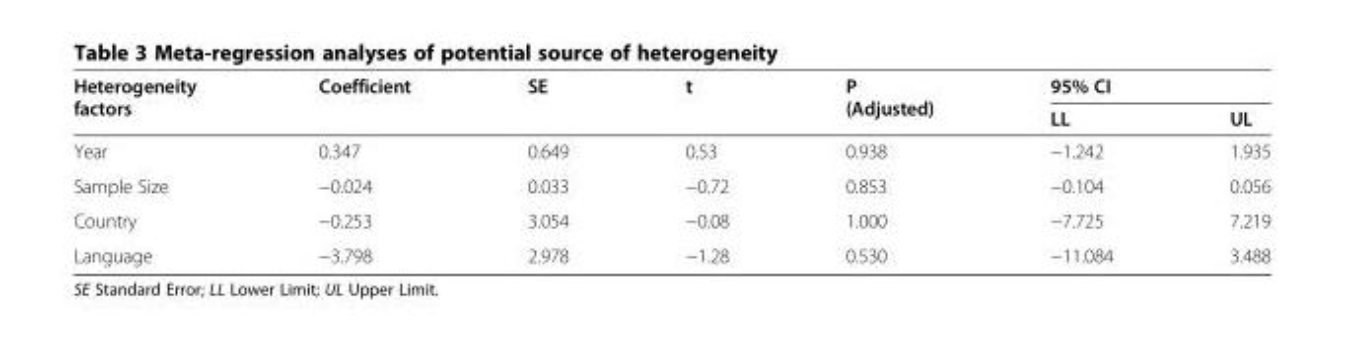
<table><thead><tr><td rowspan="2">Heterogeneity factors</td><td rowspan="2">Coefficient</td><td rowspan="2">SE</td><td rowspan="2">t</td><td rowspan="2">P (Adjusted)</td><td colspan="2">95% CI</td></tr><tr><td>LL</td><td>UL</td></tr></thead><tbody><tr><td>Year</td><td>0.347</td><td>0.649</td><td>0.53</td><td>0.938</td><td>−1.242</td><td>1.935</td></tr><tr><td>Sample Size</td><td>−0.024</td><td>0.033</td><td>−0.72</td><td>0.853</td><td>−0.104</td><td>0.056</td></tr><tr><td>Country</td><td>−0.253</td><td>3.054</td><td>−0.08</td><td>1.000</td><td>−7.725</td><td>7.219</td></tr><tr><td>Language</td><td>−3.798</td><td>2.978</td><td>−1.28</td><td>0.530</td><td>−11.084</td><td>3.488</td></tr></tbody></table>